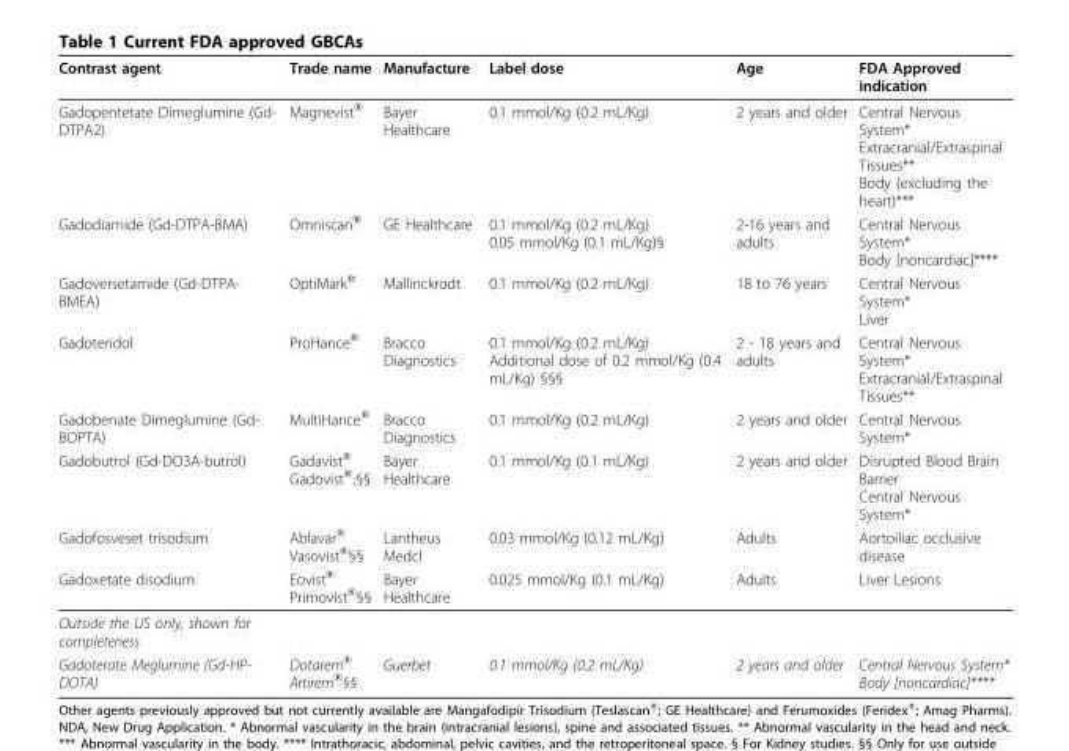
<table><thead><tr><td>Contrast agent</td><td>Trade name</td><td>Manufacture</td><td>Label dose</td><td>Age</td><td>FDA Approved indication</td></tr></thead><tbody><tr><td>Gadopentetate Dimeglumine (Gd- DTPA2)</td><td>Magnevist<sup>®</sup></td><td>Bayer Healthcare</td><td>0.1 mmol/Kg (0.2 mL/Kg)</td><td>2 years and older</td><td>Central Nervous System* Extracranial/Extraspinal Tissues** Body (excluding the heart)***</td></tr><tr><td>Gadodiamide (Gd-DTPA-BMA)</td><td>Omniscan<sup>®</sup></td><td>GE Healthcare</td><td>0.1 mmol/Kg (0.2 mL/Kg) 0.05 mmol/Kg (0.1 mL/Kg)§</td><td>2-16 years and adults</td><td>Central Nervous System* Body [noncardiac]****</td></tr><tr><td>Gadoversetamide (Gd-DTPA- BMEA)</td><td>OptiMark<sup>®</sup></td><td>Mallinckrodt</td><td>0.1 mmol/Kg (0.2 mL/Kg)</td><td>18 to 76 years</td><td>Central Nervous System* Liver</td></tr><tr><td>Gadoteridol</td><td>ProHance<sup>®</sup></td><td>Bracco Diagnostics</td><td>0.1 mmol/Kg (0.2 mL/Kg) Additional dose of 0.2 mmol/Kg (0.4 mL/Kg) §§§</td><td>2 - 18 years and adults</td><td>Central Nervous System* Extracranial/Extraspinal Tissues**</td></tr><tr><td>Gadobenate Dimeglumine (Gd- BOPTA)</td><td>MultiHance<sup>®</sup></td><td>Bracco Diagnostics</td><td>0.1 mmol/Kg (0.2 mL/Kg)</td><td>2 years and older</td><td>Central Nervous System*</td></tr><tr><td>Gadobutrol (Gd-DO3A-butrol)</td><td>Gadavist<sup>®</sup> Gadovist<sup>®</sup>;§§</td><td>Bayer Healthcare</td><td>0.1 mmol/Kg (0.1 mL/Kg)</td><td>2 years and older</td><td>Disrupted Blood Brain Barrier Central Nervous System*</td></tr><tr><td>Gadofosveset trisodium</td><td>Ablavar<sup>®</sup> Vasovist<sup>®</sup>§§</td><td>Lantheus Medcl</td><td>0.03 mmol/Kg (0.12 mL/Kg)</td><td>Adults</td><td>Aortoiliac occlusive disease</td></tr><tr><td>Gadoxetate disodium</td><td>Eovist<sup>®</sup> Primovist<sup>®</sup>§§</td><td>Bayer Healthcare</td><td>0.025 mmol/Kg (0.1 mL/Kg)</td><td>Adults</td><td>Liver Lesions</td></tr><tr><td colspan="6">Outside the US only, shown for completeness</td></tr><tr><td>Gadoterate Meglumine (Gd-HP- DOTA)</td><td>Dotarem<sup>®</sup> Artirem<sup>®</sup>§§</td><td>Guerbet</td><td>0.1 mmol/Kg (0.2 mL/Kg)</td><td>2 years and older</td><td>Central Nervous System* Body [noncardiac]****</td></tr></tbody></table>